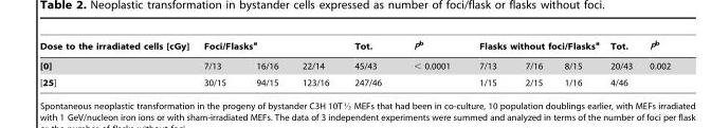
<table><thead><tr><td rowspan="2">Dose to the irradiated cells [cGy] [0]</td><td colspan="3">Foci/Flasks<sup>a</sup></td><td rowspan="2">Tot. 45/43</td><td rowspan="2">Pb &lt; 0.0001</td><td colspan="3">Flasks without foci/Flasks<sup>a</sup></td><td rowspan="2">Tot. 20/43</td><td rowspan="2">Pb 0.002</td></tr><tr><td>7/13</td><td>16/16</td><td>22/14</td><td>7/13</td><td>7/16</td><td>8/15</td></tr></thead><tbody><tr><td>[25]</td><td>30/15</td><td>94/15</td><td>123/16</td><td>247/46</td><td></td><td>1/15</td><td>2/15</td><td>1/16</td><td>4/46</td><td></td></tr></tbody></table>